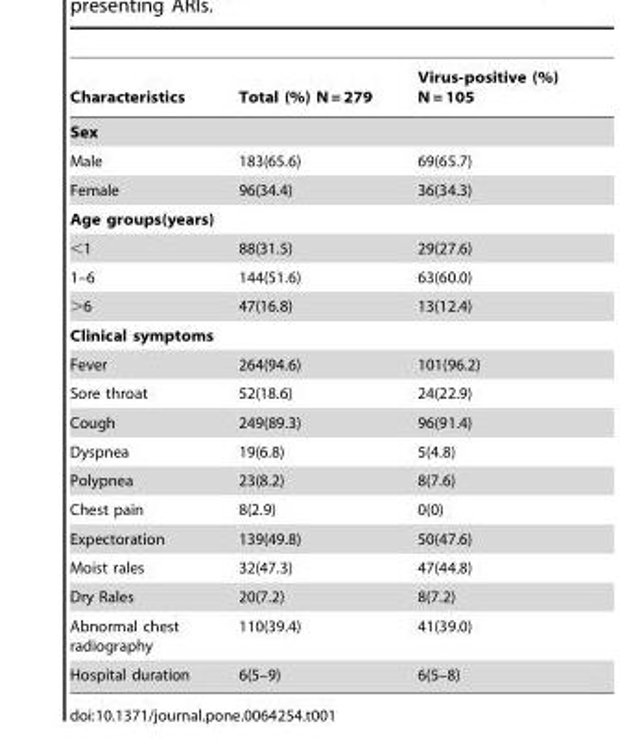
<table><thead><tr><td>Characteristics</td><td>Total (%) N = 279</td><td>Virus-positive (%) N = 105</td></tr></thead><tbody><tr><td colspan="3">Sex</td></tr><tr><td>Male</td><td>183(65.6)</td><td>69(65.7)</td></tr><tr><td>Female</td><td>96(34.4)</td><td>36(34.3)</td></tr><tr><td colspan="3">Age groups(years)</td></tr><tr><td>&lt;1</td><td>88(31.5)</td><td>29(27.6)</td></tr><tr><td>1–6</td><td>144(51.6)</td><td>63(60.0)</td></tr><tr><td>&gt;6</td><td>47(16.8)</td><td>13(12.4)</td></tr><tr><td colspan="3">Clinical symptoms</td></tr><tr><td>Fever</td><td>264(94.6)</td><td>101(96.2)</td></tr><tr><td>Sore throat</td><td>52(18.6)</td><td>24(22.9)</td></tr><tr><td>Cough</td><td>249(89.3)</td><td>96(91.4)</td></tr><tr><td>Dyspnea</td><td>19(6.8)</td><td>5(4.8)</td></tr><tr><td>Polypnea</td><td>23(8.2)</td><td>8(7.6)</td></tr><tr><td>Chest pain</td><td>8(2.9)</td><td>0(0)</td></tr><tr><td>Expectoration</td><td>139(49.8)</td><td>50(47.6)</td></tr><tr><td>Moist rales</td><td>32(47.3)</td><td>47(44.8)</td></tr><tr><td>Dry Rales</td><td>20(7.2)</td><td>8(7.2)</td></tr><tr><td>Abnormal chest radiography</td><td>110(39.4)</td><td>41(39.0)</td></tr><tr><td>Hospital duration</td><td>6(5–9)</td><td>6(5–8)</td></tr></tbody></table>